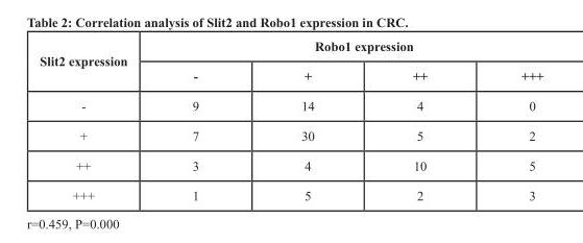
<table><thead><tr><td rowspan="2">Slit2 expression</td><td colspan="4">Robo1 expression</td></tr><tr><td>-</td><td>+</td><td>++</td><td>+++</td></tr></thead><tbody><tr><td>-</td><td>9</td><td>14</td><td>4</td><td>0</td></tr><tr><td>+</td><td>7</td><td>30</td><td>5</td><td>2</td></tr><tr><td>++</td><td>3</td><td>4</td><td>10</td><td>5</td></tr><tr><td>+++</td><td>1</td><td>5</td><td>2</td><td>3</td></tr></tbody></table>